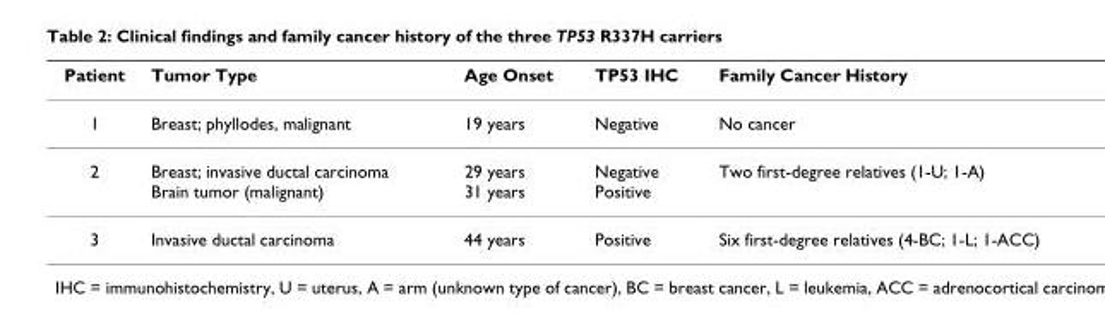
<table><thead><tr><td>Patient</td><td>Tumor Type</td><td>Age Onset</td><td>TP53 IHC</td><td>Family Cancer History</td></tr></thead><tbody><tr><td>1</td><td>Breast; phyllodes, malignant</td><td>19 years</td><td>Negative</td><td>No cancer</td></tr><tr><td>2</td><td>Breast; invasive ductal carcinoma Brain tumor (malignant)</td><td>29 years 31 years</td><td>Negative Positive</td><td>Two first-degree relatives (1-U; 1-A)</td></tr><tr><td>3</td><td>Invasive ductal carcinoma</td><td>44 years</td><td>Positive</td><td>Six first-degree relatives (4-BC; 1-L; 1-ACC)</td></tr></tbody></table>